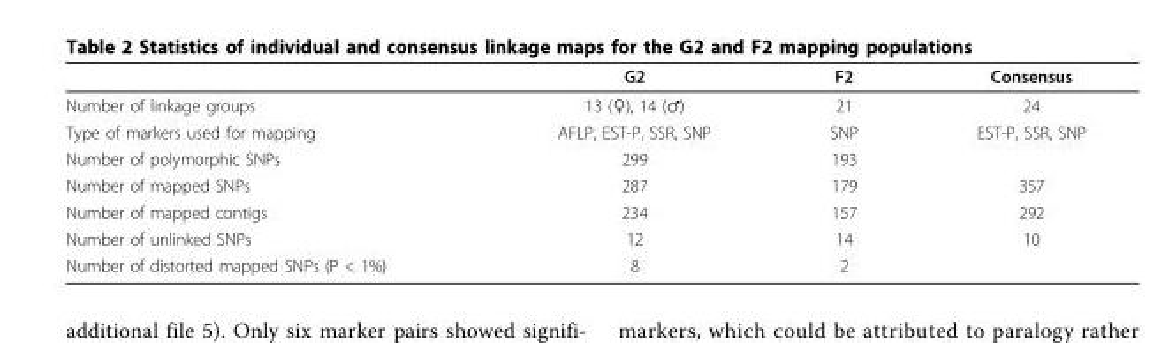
<table><thead><tr><td></td><td>G2</td><td>F2</td><td>Consensus</td></tr></thead><tbody><tr><td>Number of linkage groups</td><td>13 (♀), 14 (♂)</td><td>21</td><td>24</td></tr><tr><td>Type of markers used for mapping</td><td>AFLP, EST-P, SSR, SNP</td><td>SNP</td><td>EST-P, SSR, SNP</td></tr><tr><td>Number of polymorphic SNPs</td><td>299</td><td>193</td><td></td></tr><tr><td>Number of mapped SNPs</td><td>287</td><td>179</td><td>357</td></tr><tr><td>Number of mapped contigs</td><td>234</td><td>157</td><td>292</td></tr><tr><td>Number of unlinked SNPs</td><td>12</td><td>14</td><td>10</td></tr><tr><td>Number of distorted mapped SNPs (P &lt; 1%)</td><td>8</td><td>2</td><td></td></tr></tbody></table>